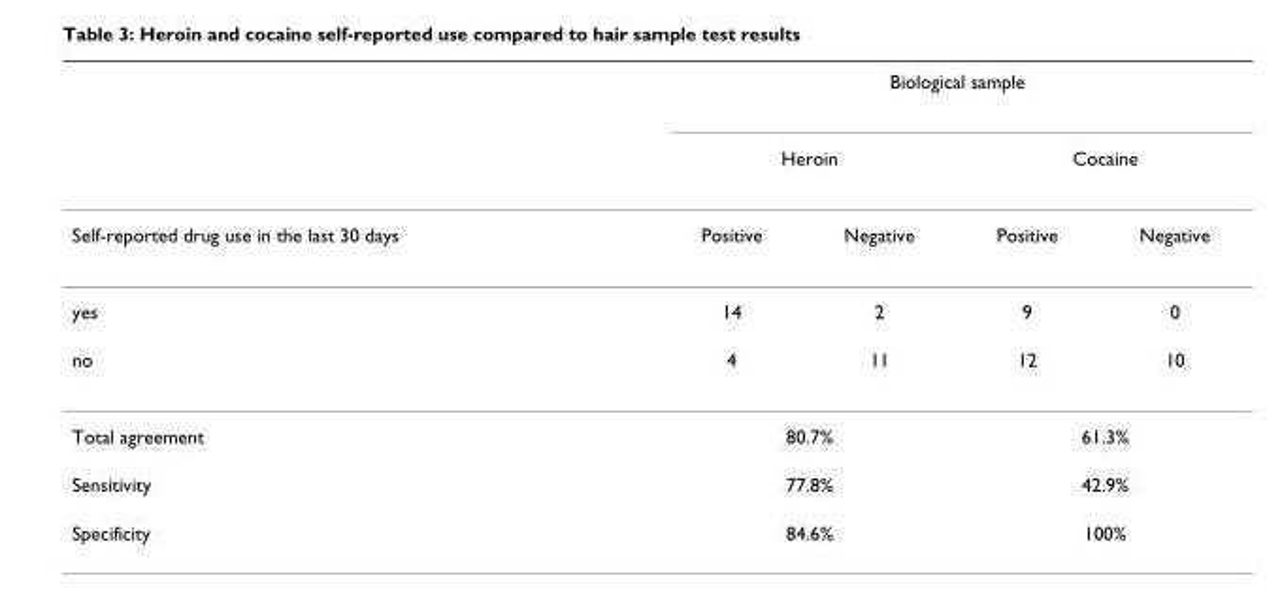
<table><thead><tr><td rowspan="3">Self-reported drug use in the last 30 days</td><td colspan="4">Biological sample</td></tr><tr><td colspan="2">Heroin</td><td colspan="2">Cocaine</td></tr><tr><td>Positive</td><td>Negative</td><td>Positive</td><td>Negative</td></tr></thead><tbody><tr><td>yes</td><td>14</td><td>2</td><td>9</td><td>0</td></tr><tr><td>no</td><td>4</td><td>11</td><td>12</td><td>10</td></tr><tr><td>Total agreement</td><td colspan="2">80.7%</td><td colspan="2">61.3%</td></tr><tr><td>Sensitivity</td><td colspan="2">77.8%</td><td colspan="2">42.9%</td></tr><tr><td>Specificity</td><td colspan="2">84.6%</td><td colspan="2">100%</td></tr></tbody></table>